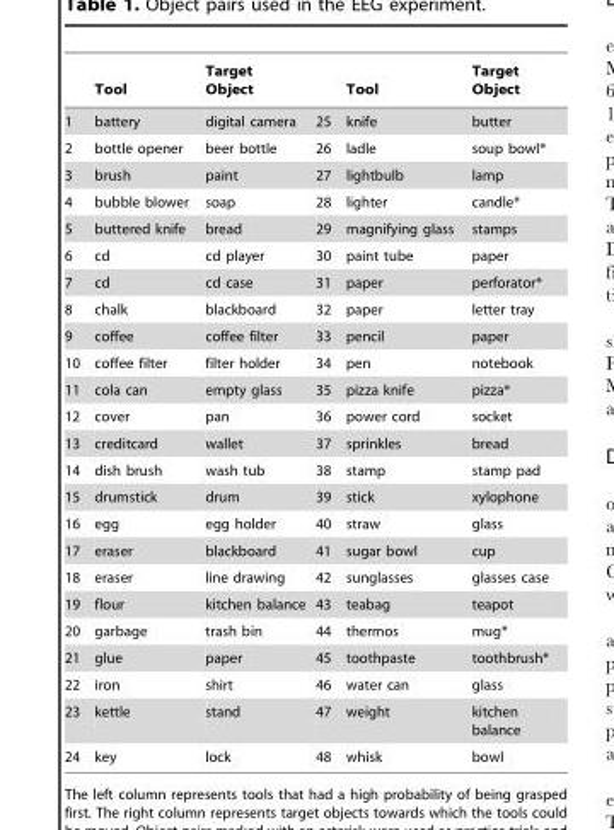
<table><thead><tr><td></td><td>Tool</td><td>Target Object</td><td></td><td>Tool</td><td>Target Object</td></tr></thead><tbody><tr><td>1</td><td>battery</td><td>digital camera</td><td>25</td><td>knife</td><td>butter</td></tr><tr><td>2</td><td>bottle opener</td><td>beer bottle</td><td>26</td><td>ladle</td><td>soup bowl*</td></tr><tr><td>3</td><td>brush</td><td>paint</td><td>27</td><td>lightbulb</td><td>lamp</td></tr><tr><td>4</td><td>bubble blower</td><td>soap</td><td>28</td><td>lighter</td><td>candle*</td></tr><tr><td>5</td><td>buttered knife</td><td>bread</td><td>29</td><td>magnifying glass</td><td>stamps</td></tr><tr><td>6</td><td>cd</td><td>cd player</td><td>30</td><td>paint tube</td><td>paper</td></tr><tr><td>7</td><td>cd</td><td>cd case</td><td>31</td><td>paper</td><td>perforator*</td></tr><tr><td>8</td><td>chalk</td><td>blackboard</td><td>32</td><td>paper</td><td>letter tray</td></tr><tr><td>9</td><td>coffee</td><td>coffee filter</td><td>33</td><td>pencil</td><td>paper</td></tr><tr><td>10</td><td>coffee filter</td><td>filter holder</td><td>34</td><td>pen</td><td>notebook</td></tr><tr><td>11</td><td>cola can</td><td>empty glass</td><td>35</td><td>pizza knife</td><td>pizza*</td></tr><tr><td>12</td><td>cover</td><td>pan</td><td>36</td><td>power cord</td><td>socket</td></tr><tr><td>13</td><td>creditcard</td><td>wallet</td><td>37</td><td>sprinkles</td><td>bread</td></tr><tr><td>14</td><td>dish brush</td><td>wash tub</td><td>38</td><td>stamp</td><td>stamp pad</td></tr><tr><td>15</td><td>drumstick</td><td>drum</td><td>39</td><td>stick</td><td>xylophone</td></tr><tr><td>16</td><td>egg</td><td>egg holder</td><td>40</td><td>straw</td><td>glass</td></tr><tr><td>17</td><td>eraser</td><td>blackboard</td><td>41</td><td>sugar bowl</td><td>cup</td></tr><tr><td>18</td><td>eraser</td><td>line drawing</td><td>42</td><td>sunglasses</td><td>glasses case</td></tr><tr><td>19</td><td>flour</td><td>kitchen balance</td><td>43</td><td>teabag</td><td>teapot</td></tr><tr><td>20</td><td>garbage</td><td>trash bin</td><td>44</td><td>thermos</td><td>mug*</td></tr><tr><td>21</td><td>glue</td><td>paper</td><td>45</td><td>toothpaste</td><td>toothbrush*</td></tr><tr><td>22</td><td>iron</td><td>shirt</td><td>46</td><td>water can</td><td>glass</td></tr><tr><td>23</td><td>kettle</td><td>stand</td><td>47</td><td>weight</td><td>kitchen balance</td></tr><tr><td>24</td><td>key</td><td>lock</td><td>48</td><td>whisk</td><td>bowl</td></tr></tbody></table>